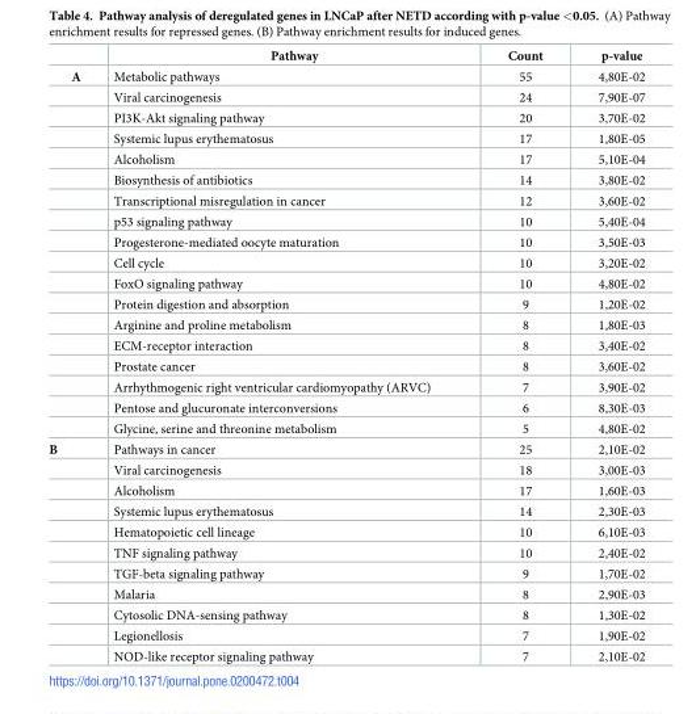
<table><thead><tr><td></td><td>Pathway</td><td>Count</td><td>p-value</td></tr></thead><tbody><tr><td rowspan="18">A</td><td>Metabolic pathways</td><td>55</td><td>4,80E-02</td></tr><tr><td>Viral carcinogenesis</td><td>24</td><td>7,90E-07</td></tr><tr><td>PI3K-Akt signaling pathway</td><td>20</td><td>3,70E-02</td></tr><tr><td>Systemic lupus erythematosus</td><td>17</td><td>1,80E-05</td></tr><tr><td>Alcoholism</td><td>17</td><td>5,10E-04</td></tr><tr><td>Biosynthesis of antibiotics</td><td>14</td><td>3,80E-02</td></tr><tr><td>Transcriptional misregulation in cancer</td><td>12</td><td>3,60E-02</td></tr><tr><td>p53 signaling pathway</td><td>10</td><td>5,40E-04</td></tr><tr><td>Progesterone-mediated oocyte maturation</td><td>10</td><td>3,50E-03</td></tr><tr><td>Cell cycle</td><td>10</td><td>3,20E-02</td></tr><tr><td>FoxO signaling pathway</td><td>10</td><td>4,80E-02</td></tr><tr><td>Protein digestion and absorption</td><td>9</td><td>1,20E-02</td></tr><tr><td>Arginine and proline metabolism</td><td>8</td><td>1,80E-03</td></tr><tr><td>ECM-receptor interaction</td><td>8</td><td>3,40E-02</td></tr><tr><td>Prostate cancer</td><td>8</td><td>3,60E-02</td></tr><tr><td>Arrhythmogenic right ventricular cardiomyopathy (ARVC)</td><td>7</td><td>3,90E-02</td></tr><tr><td>Pentose and glucuronate interconversions</td><td>6</td><td>8,30E-03</td></tr><tr><td>Glycine, serine and threonine metabolism</td><td>5</td><td>4,80E-02</td></tr><tr><td rowspan="11">B</td><td>Pathways in cancer</td><td>25</td><td>2,10E-02</td></tr><tr><td>Viral carcinogenesis</td><td>18</td><td>3,00E-03</td></tr><tr><td>Alcoholism</td><td>17</td><td>1,60E-03</td></tr><tr><td>Systemic lupus erythematosus</td><td>14</td><td>2,30E-03</td></tr><tr><td>Hematopoietic cell lineage</td><td>10</td><td>6,10E-03</td></tr><tr><td>TNF signaling pathway</td><td>10</td><td>2,40E-02</td></tr><tr><td>TGF-beta signaling pathway</td><td>9</td><td>1,70E-02</td></tr><tr><td>Malaria</td><td>8</td><td>2,90E-03</td></tr><tr><td>Cytosolic DNA-sensing pathway</td><td>8</td><td>1,30E-02</td></tr><tr><td>Legionellosis</td><td>7</td><td>1,90E-02</td></tr><tr><td>NOD-like receptor signaling pathway</td><td>7</td><td>2,10E-02</td></tr></tbody></table>